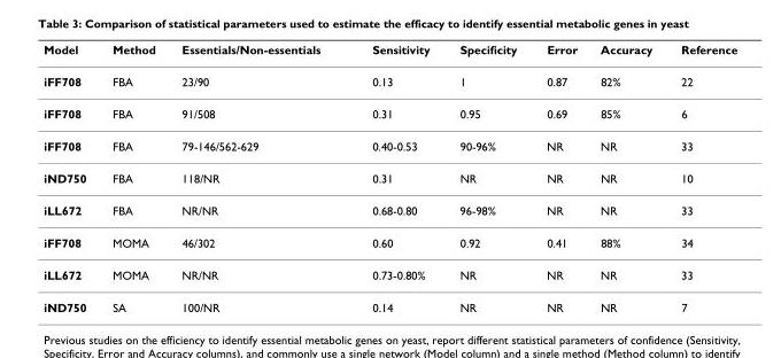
<table><thead><tr><td>Model</td><td>Method</td><td>Essentials/Non-essentials</td><td>Sensitivity</td><td>Specificity</td><td>Error</td><td>Accuracy</td><td>Reference</td></tr></thead><tbody><tr><td>iFF708</td><td>FBA</td><td>23/90</td><td>0.13</td><td>1</td><td>0.87</td><td>82%</td><td>22</td></tr><tr><td>iFF708</td><td>FBA</td><td>91/508</td><td>0.31</td><td>0.95</td><td>0.69</td><td>85%</td><td>6</td></tr><tr><td>iFF708</td><td>FBA</td><td>79-146/562-629</td><td>0.40-0.53</td><td>90-96%</td><td>NR</td><td>NR</td><td>33</td></tr><tr><td>iND750</td><td>FBA</td><td>118/NR</td><td>0.31</td><td>NR</td><td>NR</td><td>NR</td><td>10</td></tr><tr><td>iLL672</td><td>FBA</td><td>NR/NR</td><td>0.68-0.80</td><td>96-98%</td><td>NR</td><td>NR</td><td>33</td></tr><tr><td>iFF708</td><td>MOMA</td><td>46/302</td><td>0.60</td><td>0.92</td><td>0.41</td><td>88%</td><td>34</td></tr><tr><td>iLL672</td><td>MOMA</td><td>NR/NR</td><td>0.73-0.80%</td><td>NR</td><td>NR</td><td>NR</td><td>33</td></tr><tr><td>iND750</td><td>SA</td><td>100/NR</td><td>0.14</td><td>NR</td><td>NR</td><td>NR</td><td>7</td></tr></tbody></table>